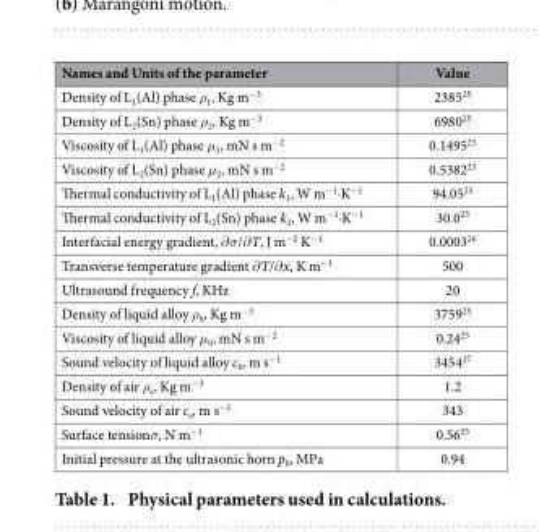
<table><thead><tr><td>Names and Units of the parameter</td><td>Value</td></tr></thead><tbody><tr><td>Density of L<sub>1</sub>(Al) phase ρ<sub>1</sub>, Kg m<sup>−3</sup></td><td>2385<sup>25</sup></td></tr><tr><td>Density of L<sub>2</sub>(Sn) phase ρ<sub>2</sub>, Kg m<sup>−3</sup></td><td>6980<sup>25</sup></td></tr><tr><td>Viscosity of L<sub>1</sub>(Al) phase μ<sub>1</sub>, mN s m<sup>−2</sup></td><td>0.1495<sup>25</sup></td></tr><tr><td>Viscosity of L<sub>2</sub>(Sn) phase μ<sub>2</sub>, mN s m<sup>−2</sup></td><td>0.5382<sup>25</sup></td></tr><tr><td>Thermal conductivity of L<sub>1</sub>(Al) phase k<sub>1</sub>, W m<sup>−1</sup>·K<sup>−1</sup></td><td>94.05<sup>25</sup></td></tr><tr><td>Thermal conductivity of L<sub>2</sub>(Sn) phase k<sub>2</sub>, W m<sup>−1</sup>·K<sup>−1</sup></td><td>30.0<sup>25</sup></td></tr><tr><td>Interfacial energy gradient, ∂ σ/∂ T, J m<sup>−2</sup> K<sup>−1</sup></td><td>0.0003<sup>26</sup></td></tr><tr><td>Transverse temperature gradient ∂ T/∂ x, K m<sup>−1</sup></td><td>500</td></tr><tr><td>Ultrasound frequency f, KHz</td><td>20</td></tr><tr><td>Density of liquid alloy ρ<sub>0</sub>, Kg m<sup>−3</sup></td><td>3759<sup>25</sup></td></tr><tr><td>Viscosity of liquid alloy μ<sub>0</sub>, mN s m<sup>−2</sup></td><td>0.24<sup>25</sup></td></tr><tr><td>Sound velocity of liquid alloy c<sub>0</sub>, m s<sup>−1</sup></td><td>3454<sup>27</sup></td></tr><tr><td>Density of air ρ<sub>e</sub>, Kg m<sup>−3</sup></td><td>1.2</td></tr><tr><td>Sound velocity of air c<sub>e</sub>, m s<sup>−1</sup></td><td>343</td></tr><tr><td>Surface tensionσ, N m<sup>−1</sup></td><td>0.56<sup>25</sup></td></tr><tr><td>Initial pressure at the ultrasonic horn p<sub>0</sub>, MPa</td><td>0.94</td></tr></tbody></table>